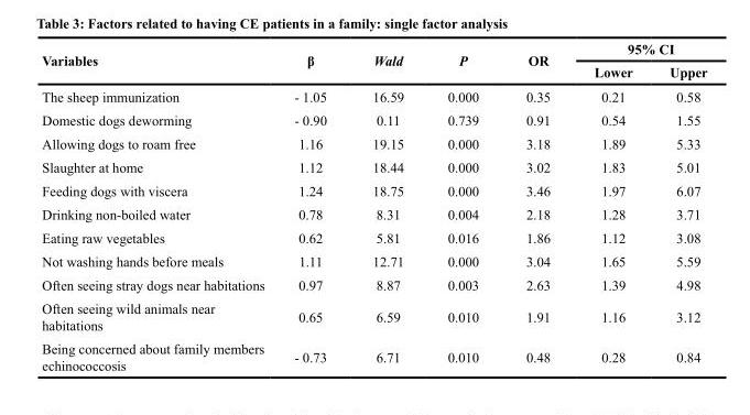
<table><thead><tr><td rowspan="2">Variables</td><td rowspan="2">β</td><td rowspan="2">Wald</td><td rowspan="2">P</td><td rowspan="2">OR</td><td colspan="2">95% CI</td></tr><tr><td>Lower</td><td>Upper</td></tr></thead><tbody><tr><td>The sheep immunization</td><td>- 1.05</td><td>16.59</td><td>0.000</td><td>0.35</td><td>0.21</td><td>0.58</td></tr><tr><td>Domestic dogs deworming</td><td>- 0.90</td><td>0.11</td><td>0.739</td><td>0.91</td><td>0.54</td><td>1.55</td></tr><tr><td>Allowing dogs to roam free</td><td>1.16</td><td>19.15</td><td>0.000</td><td>3.18</td><td>1.89</td><td>5.33</td></tr><tr><td>Slaughter at home</td><td>1.12</td><td>18.44</td><td>0.000</td><td>3.02</td><td>1.83</td><td>5.01</td></tr><tr><td>Feeding dogs with viscera</td><td>1.24</td><td>18.75</td><td>0.000</td><td>3.46</td><td>1.97</td><td>6.07</td></tr><tr><td>Drinking non-boiled water</td><td>0.78</td><td>8.31</td><td>0.004</td><td>2.18</td><td>1.28</td><td>3.71</td></tr><tr><td>Eating raw vegetables</td><td>0.62</td><td>5.81</td><td>0.016</td><td>1.86</td><td>1.12</td><td>3.08</td></tr><tr><td>Not washing hands before meals</td><td>1.11</td><td>12.71</td><td>0.000</td><td>3.04</td><td>1.65</td><td>5.59</td></tr><tr><td>Often seeing stray dogs near habitations</td><td>0.97</td><td>8.87</td><td>0.003</td><td>2.63</td><td>1.39</td><td>4.98</td></tr><tr><td>Often seeing wild animals near habitations</td><td>0.65</td><td>6.59</td><td>0.010</td><td>1.91</td><td>1.16</td><td>3.12</td></tr><tr><td>Being concerned about family members echinococcosis</td><td>- 0.73</td><td>6.71</td><td>0.010</td><td>0.48</td><td>0.28</td><td>0.84</td></tr></tbody></table>